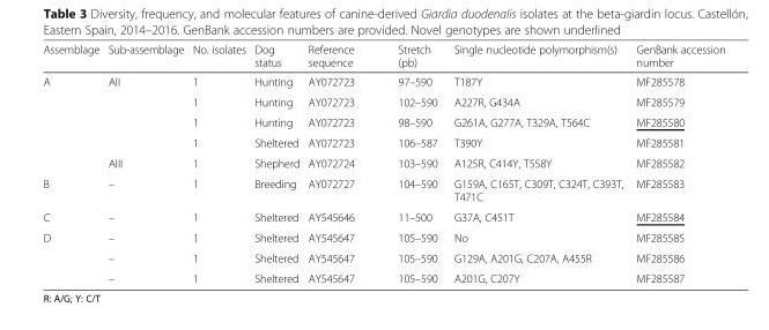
<table><thead><tr><td>Assemblage</td><td>Sub-assemblage</td><td>No. isolates</td><td>Dog status</td><td>Reference sequence</td><td>Stretch (pb)</td><td>Single nucleotide polymorphism(s)</td><td>GenBank accession number</td></tr></thead><tbody><tr><td rowspan="5">A</td><td rowspan="4">AII</td><td>1</td><td>Hunting</td><td>AY072723</td><td>97–590</td><td>T187Y</td><td>MF285578</td></tr><tr><td>1</td><td>Hunting</td><td>AY072723</td><td>102–590</td><td>A227R, G434A</td><td>MF285579</td></tr><tr><td>1</td><td>Hunting</td><td>AY072723</td><td>98–590</td><td>G261A, G277A, T329A, T564C</td><td>MF285580</td></tr><tr><td>1</td><td>Sheltered</td><td>AY072723</td><td>106–587</td><td>T390Y</td><td>MF285581</td></tr><tr><td>AIII</td><td>1</td><td>Shepherd</td><td>AY072724</td><td>103–590</td><td>A125R, C414Y, T558Y</td><td>MF285582</td></tr><tr><td>B</td><td>–</td><td>1</td><td>Breeding</td><td>AY072727</td><td>104–590</td><td>G159A, C165T, C309T, C324T, C393T, T471C</td><td>MF285583</td></tr><tr><td>C</td><td>–</td><td>1</td><td>Sheltered</td><td>AY545646</td><td>11–500</td><td>G37A, C451T</td><td>MF285584</td></tr><tr><td rowspan="3">D</td><td>–</td><td>1</td><td>Sheltered</td><td>AY545647</td><td>105–590</td><td>No</td><td>MF285585</td></tr><tr><td>–</td><td>1</td><td>Sheltered</td><td>AY545647</td><td>105–590</td><td>G129A, A201G, C207A, A455R</td><td>MF285586</td></tr><tr><td>–</td><td>1</td><td>Sheltered</td><td>AY545647</td><td>105–590</td><td>A201G, C207Y</td><td>MF285587</td></tr></tbody></table>